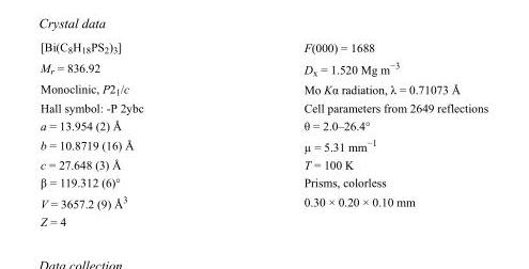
<table><tbody><tr><td>[Bi(C<sub>8</sub>H<sub>18</sub>PS<sub>2</sub>)<sub>3</sub>]</td><td>F(000) = 1688</td></tr><tr><td>M<sub>r</sub> = 836.92</td><td>D<sub>x</sub> = 1.520 Mg m<sup>−3</sup></td></tr><tr><td>Monoclinic, P2<sub>1</sub>/c</td><td>Mo Kα radiation, λ = 0.71073 Å</td></tr><tr><td>Hall symbol: -P 2ybc</td><td>Cell parameters from 2649 reflections</td></tr><tr><td>a = 13.954 (2) Å</td><td>θ = 2.0–26.4°</td></tr><tr><td>b = 10.8719 (16) Å</td><td>µ = 5.31 mm<sup>−1</sup></td></tr><tr><td>c = 27.648 (3) Å</td><td>T = 100 K</td></tr><tr><td>β = 119.312 (6)°</td><td>Prisms, colorless</td></tr><tr><td>V = 3657.2 (9) Å<sup>3</sup></td><td>0.30 × 0.20 × 0.10 mm</td></tr><tr><td>Z = 4</td><td></td></tr></tbody></table>